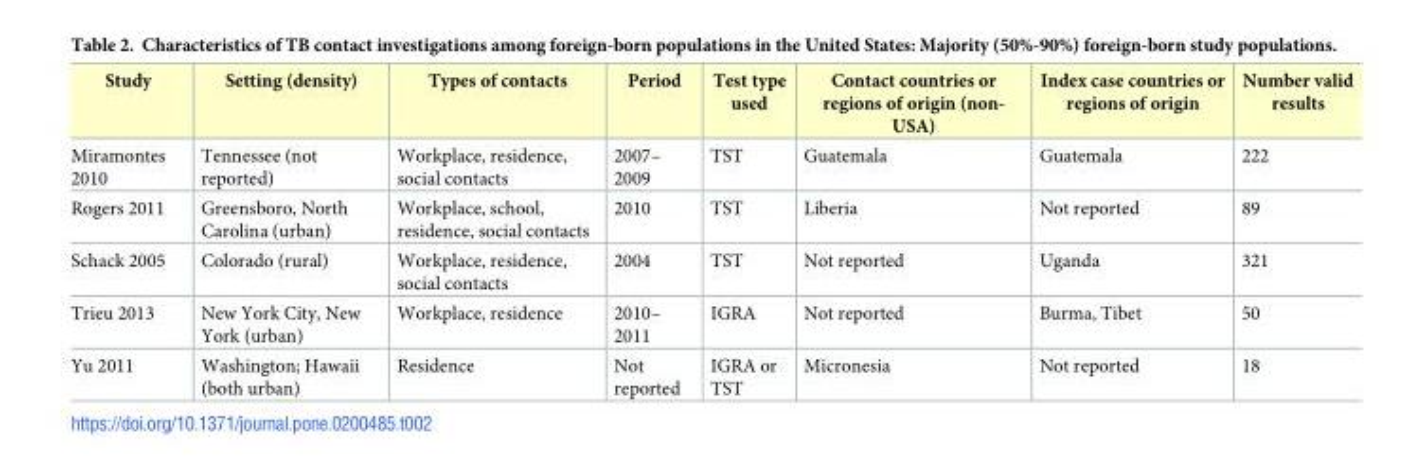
<table><thead><tr><td>Study</td><td>Setting (density)</td><td>Types of contacts</td><td>Period</td><td>Test type used</td><td>Contact countries or regions of origin (non- USA)</td><td>Index case countries or regions of origin</td><td>Number valid results</td></tr></thead><tbody><tr><td>Miramontes 2010</td><td>Tennessee (not reported)</td><td>Workplace, residence, social contacts</td><td>2007– 2009</td><td>TST</td><td>Guatemala</td><td>Guatemala</td><td>222</td></tr><tr><td>Rogers 2011</td><td>Greensboro, North Carolina (urban)</td><td>Workplace, school, residence, social contacts</td><td>2010</td><td>TST</td><td>Liberia</td><td>Not reported</td><td>89</td></tr><tr><td>Schack 2005</td><td>Colorado (rural)</td><td>Workplace, residence, social contacts</td><td>2004</td><td>TST</td><td>Not reported</td><td>Uganda</td><td>321</td></tr><tr><td>Trieu 2013</td><td>New York City, New York (urban)</td><td>Workplace, residence</td><td>2010– 2011</td><td>IGRA</td><td>Not reported</td><td>Burma, Tibet</td><td>50</td></tr><tr><td>Yu 2011</td><td>Washington; Hawaii (both urban)</td><td>Residence</td><td>Not reported</td><td>IGRA or TST</td><td>Micronesia</td><td>Not reported</td><td>18</td></tr></tbody></table>